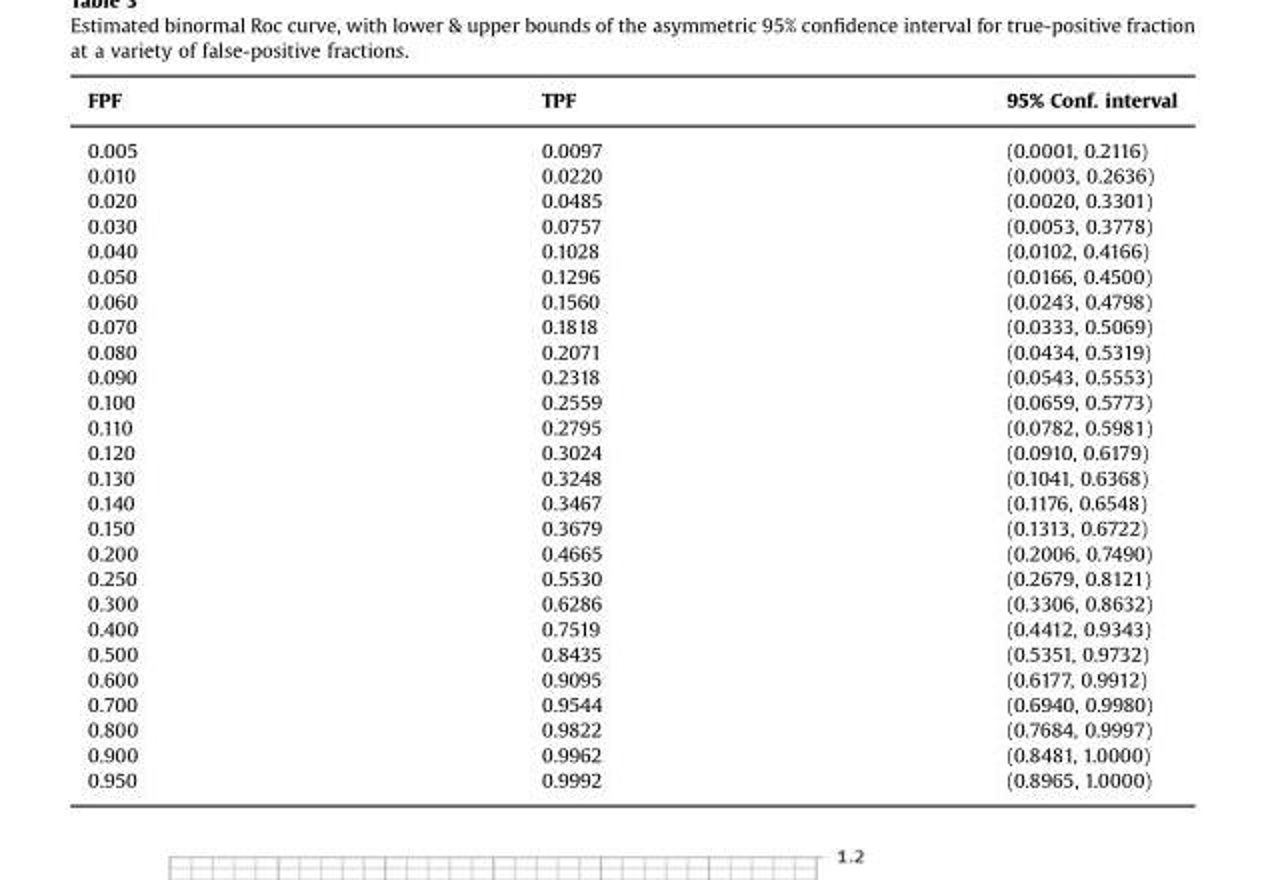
<table><thead><tr><td>FPF</td><td>TPF</td><td>95% Conf. interval</td></tr></thead><tbody><tr><td>0.005</td><td>0.0097</td><td>(0.0001, 0.2116)</td></tr><tr><td>0.010</td><td>0.0220</td><td>(0.0003, 0.2636)</td></tr><tr><td>0.020</td><td>0.0485</td><td>(0.0020, 0.3301)</td></tr><tr><td>0.030</td><td>0.0757</td><td>(0.0053, 0.3778)</td></tr><tr><td>0.040</td><td>0.1028</td><td>(0.0102, 0.4166)</td></tr><tr><td>0.050</td><td>0.1296</td><td>(0.0166, 0.4500)</td></tr><tr><td>0.060</td><td>0.1560</td><td>(0.0243, 0.4798)</td></tr><tr><td>0.070</td><td>0.1818</td><td>(0.0333, 0.5069)</td></tr><tr><td>0.080</td><td>0.2071</td><td>(0.0434, 0.5319)</td></tr><tr><td>0.090</td><td>0.2318</td><td>(0.0543, 0.5553)</td></tr><tr><td>0.100</td><td>0.2559</td><td>(0.0659, 0.5773)</td></tr><tr><td>0.110</td><td>0.2795</td><td>(0.0782, 0.5981)</td></tr><tr><td>0.120</td><td>0.3024</td><td>(0.0910, 0.6179)</td></tr><tr><td>0.130</td><td>0.3248</td><td>(0.1041, 0.6368)</td></tr><tr><td>0.140</td><td>0.3467</td><td>(0.1176, 0.6548)</td></tr><tr><td>0.150</td><td>0.3679</td><td>(0.1313, 0.6722)</td></tr><tr><td>0.200</td><td>0.4665</td><td>(0.2006, 0.7490)</td></tr><tr><td>0.250</td><td>0.5530</td><td>(0.2679, 0.8121)</td></tr><tr><td>0.300</td><td>0.6286</td><td>(0.3306, 0.8632)</td></tr><tr><td>0.400</td><td>0.7519</td><td>(0.4412, 0.9343)</td></tr><tr><td>0.500</td><td>0.8435</td><td>(0.5351, 0.9732)</td></tr><tr><td>0.600</td><td>0.9095</td><td>(0.6177, 0.9912)</td></tr><tr><td>0.700</td><td>0.9544</td><td>(0.6940, 0.9980)</td></tr><tr><td>0.800</td><td>0.9822</td><td>(0.7684, 0.9997)</td></tr><tr><td>0.900</td><td>0.9962</td><td>(0.8481, 1.0000)</td></tr><tr><td>0.950</td><td>0.9992</td><td>(0.8965, 1.0000)</td></tr></tbody></table>